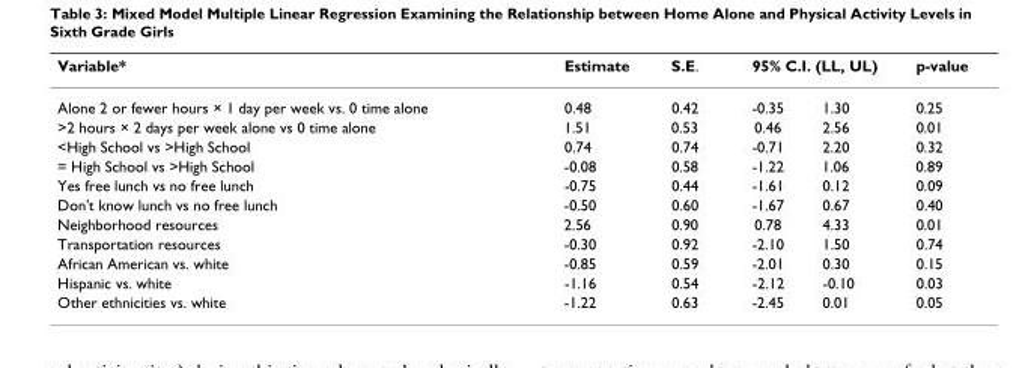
<table><thead><tr><td rowspan="2">Variable* Alone 2 or fewer hours × 1 day per week vs. 0 time alone</td><td rowspan="2">Estimate 0.48</td><td rowspan="2">S.E. 0.42</td><td colspan="2">95% C.I. (LL, UL)</td><td rowspan="2">p-value 0.25</td></tr><tr><td>-0.35</td><td>1.30</td></tr></thead><tbody><tr><td>&gt;2 hours × 2 days per week alone vs 0 time alone</td><td>1.51</td><td>0.53</td><td>0.46</td><td>2.56</td><td>0.01</td></tr><tr><td>&lt;High School vs &gt;High School</td><td>0.74</td><td>0.74</td><td>-0.71</td><td>2.20</td><td>0.32</td></tr><tr><td>= High School vs &gt;High School</td><td>-0.08</td><td>0.58</td><td>-1.22</td><td>1.06</td><td>0.89</td></tr><tr><td>Yes free lunch vs no free lunch</td><td>-0.75</td><td>0.44</td><td>-1.61</td><td>0.12</td><td>0.09</td></tr><tr><td>Don&#x27;t know lunch vs no free lunch</td><td>-0.50</td><td>0.60</td><td>-1.67</td><td>0.67</td><td>0.40</td></tr><tr><td>Neighborhood resources</td><td>2.56</td><td>0.90</td><td>0.78</td><td>4.33</td><td>0.01</td></tr><tr><td>Transportation resources</td><td>-0.30</td><td>0.92</td><td>-2.10</td><td>1.50</td><td>0.74</td></tr><tr><td>African American vs. white</td><td>-0.85</td><td>0.59</td><td>-2.01</td><td>0.30</td><td>0.15</td></tr><tr><td>Hispanic vs. white</td><td>-1.16</td><td>0.54</td><td>-2.12</td><td>-0.10</td><td>0.03</td></tr><tr><td>Other ethnicities vs. white</td><td>-1.22</td><td>0.63</td><td>-2.45</td><td>0.01</td><td>0.05</td></tr></tbody></table>